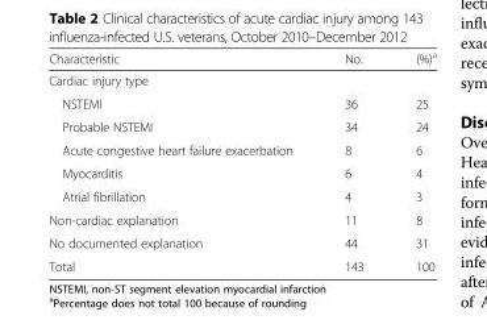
<table><thead><tr><td>Characteristic</td><td>No.</td><td>(%)<sup>a</sup></td></tr></thead><tbody><tr><td colspan="3">Cardiac injury type</td></tr><tr><td>NSTEMI</td><td>36</td><td>25</td></tr><tr><td>Probable NSTEMI</td><td>34</td><td>24</td></tr><tr><td>Acute congestive heart failure exacerbation</td><td>8</td><td>6</td></tr><tr><td>Myocarditis</td><td>6</td><td>4</td></tr><tr><td>Atrial fibrillation</td><td>4</td><td>3</td></tr><tr><td>Non-cardiac explanation</td><td>11</td><td>8</td></tr><tr><td>No documented explanation</td><td>44</td><td>31</td></tr><tr><td>Total</td><td>143</td><td>100</td></tr></tbody></table>